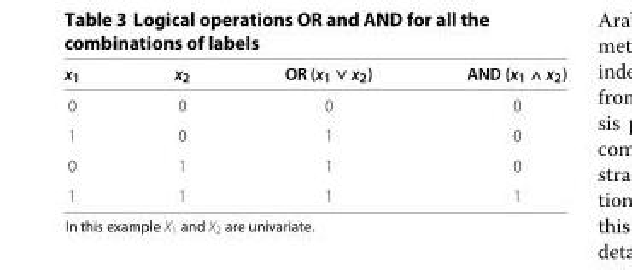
<table><thead><tr><td>x<sub>1</sub></td><td>x<sub>2</sub></td><td>OR (x<sub>1</sub> ∨ x<sub>2</sub>)</td><td>AND (x<sub>1</sub> ∧ x<sub>2</sub>)</td></tr></thead><tbody><tr><td>0</td><td>0</td><td>0</td><td>0</td></tr><tr><td>1</td><td>0</td><td>1</td><td>0</td></tr><tr><td>0</td><td>1</td><td>1</td><td>0</td></tr><tr><td>1</td><td>1</td><td>1</td><td>1</td></tr></tbody></table>